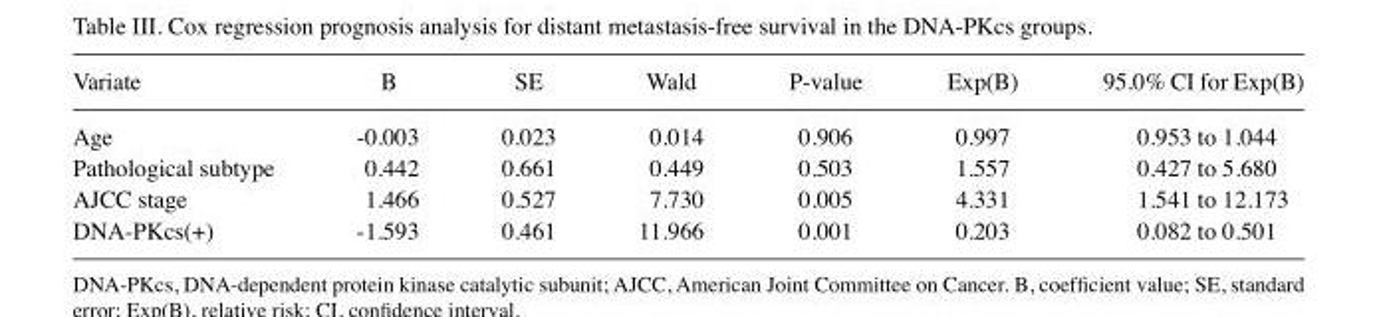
<table><thead><tr><td>Variate</td><td>B</td><td>SE</td><td>Wald</td><td>P-value</td><td>Exp(B)</td><td>95.0% CI for Exp(B)</td></tr></thead><tbody><tr><td>Age</td><td>-0.003</td><td>0.023</td><td>0.014</td><td>0.906</td><td>0.997</td><td>0.953 to 1.044</td></tr><tr><td>Pathological subtype</td><td>0.442</td><td>0.661</td><td>0.449</td><td>0.503</td><td>1.557</td><td>0.427 to 5.680</td></tr><tr><td>AJCC stage</td><td>1.466</td><td>0.527</td><td>7.730</td><td>0.005</td><td>4.331</td><td>1.541 to 12.173</td></tr><tr><td>DNA-PKcs(+)</td><td>-1.593</td><td>0.461</td><td>11.966</td><td>0.001</td><td>0.203</td><td>0.082 to 0.501</td></tr></tbody></table>